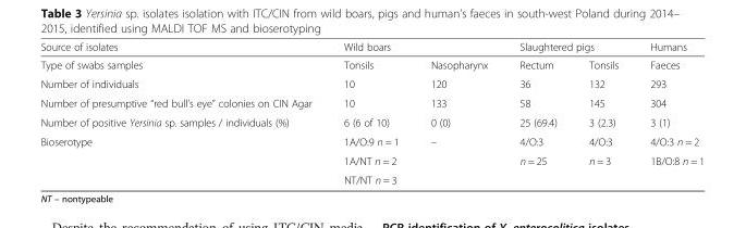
<table><thead><tr><td rowspan="2">Source of isolates Type of swabs samples</td><td colspan="2">Wild boars</td><td colspan="2">Slaughtered pigs</td><td rowspan="2">Humans Faeces</td></tr><tr><td>Tonsils</td><td>Nasopharynx</td><td>Rectum</td><td>Tonsils</td></tr></thead><tbody><tr><td>Number of individuals</td><td>10</td><td>120</td><td>36</td><td>132</td><td>293</td></tr><tr><td>Number of presumptive “red bull’s eye” colonies on CIN Agar</td><td>10</td><td>133</td><td>58</td><td>145</td><td>304</td></tr><tr><td>Number of positive Yersinia sp. samples / individuals (%)</td><td>6 (6 of 10)</td><td>0 (0)</td><td>25 (69.4)</td><td>3 (2.3)</td><td>3 (1)</td></tr><tr><td rowspan="3">Bioserotype</td><td>1A/O:9 n = 1</td><td>–</td><td>4/O:3</td><td>4/O:3</td><td>4/O:3 n = 2</td></tr><tr><td>1A/NT n = 2</td><td></td><td>n = 25</td><td>n = 3</td><td>1B/O:8 n = 1</td></tr><tr><td>NT/NT n = 3</td><td></td><td></td><td></td><td></td></tr></tbody></table>